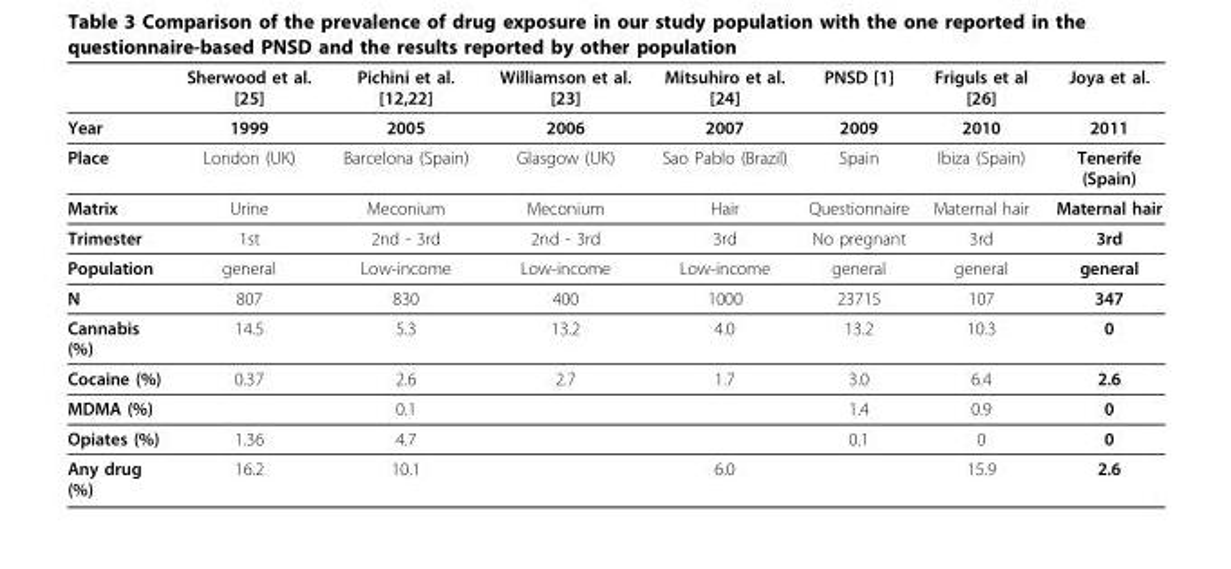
<table><thead><tr><td></td><td>Sherwood et al. [25]</td><td>Pichini et al. [12,22]</td><td>Williamson et al. [23]</td><td>Mitsuhiro et al. [24]</td><td>PNSD [1]</td><td>Friguls et al [26]</td><td>Joya et al.</td></tr></thead><tbody><tr><td>Year</td><td>1999</td><td>2005</td><td>2006</td><td>2007</td><td>2009</td><td>2010</td><td>2011</td></tr><tr><td>Place</td><td>London (UK)</td><td>Barcelona (Spain)</td><td>Glasgow (UK)</td><td>Sao Pablo (Brazil)</td><td>Spain</td><td>Ibiza (Spain)</td><td>Tenerife (Spain)</td></tr><tr><td>Matrix</td><td>Urine</td><td>Meconium</td><td>Meconium</td><td>Hair</td><td>Questionnaire</td><td>Maternal hair</td><td>Maternal hair</td></tr><tr><td>Trimester</td><td>1st</td><td>2nd - 3rd</td><td>2nd - 3rd</td><td>3rd</td><td>No pregnant</td><td>3rd</td><td>3rd</td></tr><tr><td>Population</td><td>general</td><td>Low-income</td><td>Low-income</td><td>Low-income</td><td>general</td><td>general</td><td>general</td></tr><tr><td>N</td><td>807</td><td>830</td><td>400</td><td>1000</td><td>23715</td><td>107</td><td>347</td></tr><tr><td>Cannabis (%)</td><td>14.5</td><td>5.3</td><td>13.2</td><td>4.0</td><td>13.2</td><td>10.3</td><td>0</td></tr><tr><td>Cocaine (%)</td><td>0.37</td><td>2.6</td><td>2.7</td><td>1.7</td><td>3.0</td><td>6.4</td><td>2.6</td></tr><tr><td>MDMA (%)</td><td></td><td>0.1</td><td></td><td></td><td>1.4</td><td>0.9</td><td>0</td></tr><tr><td>Opiates (%)</td><td>1.36</td><td>4.7</td><td></td><td></td><td>0.1</td><td>0</td><td>0</td></tr><tr><td>Any drug (%)</td><td>16.2</td><td>10.1</td><td></td><td>6.0</td><td></td><td>15.9</td><td>2.6</td></tr></tbody></table>